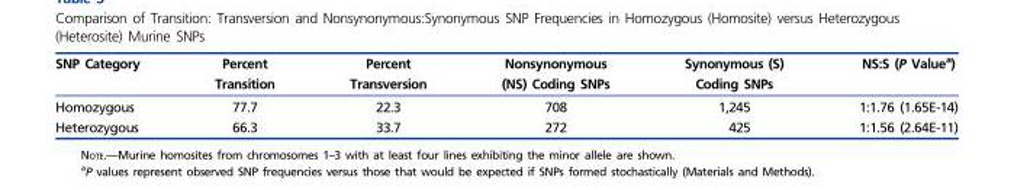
<table><thead><tr><td>SNP Category</td><td>Percent Transition</td><td>Percent Transversion</td><td>Nonsynonymous (NS) Coding SNPs</td><td>Synonymous (S) Coding SNPs</td><td>NS:S (P Value<sup>a</sup>)</td></tr></thead><tbody><tr><td>Homozygous</td><td>77.7</td><td>22.3</td><td>708</td><td>1,245</td><td>1:1.76 (1.65E-14)</td></tr><tr><td>Heterozygous</td><td>66.3</td><td>33.7</td><td>272</td><td>425</td><td>1:1.56 (2.64E-11)</td></tr></tbody></table>